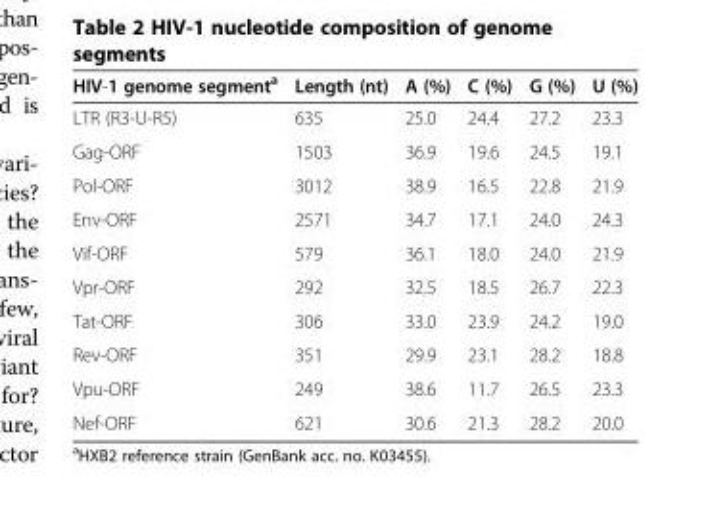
<table><thead><tr><td>HIV-1 genome segment<sup>a</sup></td><td>Length (nt)</td><td>A (%)</td><td>C (%)</td><td>G (%)</td><td>U (%)</td></tr></thead><tbody><tr><td>LTR (R3-U-R5)</td><td>635</td><td>25.0</td><td>24.4</td><td>27.2</td><td>23.3</td></tr><tr><td>Gag-ORF</td><td>1503</td><td>36.9</td><td>19.6</td><td>24.5</td><td>19.1</td></tr><tr><td>Pol-ORF</td><td>3012</td><td>38.9</td><td>16.5</td><td>22.8</td><td>21.9</td></tr><tr><td>Env-ORF</td><td>2571</td><td>34.7</td><td>17.1</td><td>24.0</td><td>24.3</td></tr><tr><td>Vif-ORF</td><td>579</td><td>36.1</td><td>18.0</td><td>24.0</td><td>21.9</td></tr><tr><td>Vpr-ORF</td><td>292</td><td>32.5</td><td>18.5</td><td>26.7</td><td>22.3</td></tr><tr><td>Tat-ORF</td><td>306</td><td>33.0</td><td>23.9</td><td>24.2</td><td>19.0</td></tr><tr><td>Rev-ORF</td><td>351</td><td>29.9</td><td>23.1</td><td>28.2</td><td>18.8</td></tr><tr><td>Vpu-ORF</td><td>249</td><td>38.6</td><td>11.7</td><td>26.5</td><td>23.3</td></tr><tr><td>Nef-ORF</td><td>621</td><td>30.6</td><td>21.3</td><td>28.2</td><td>20.0</td></tr></tbody></table>